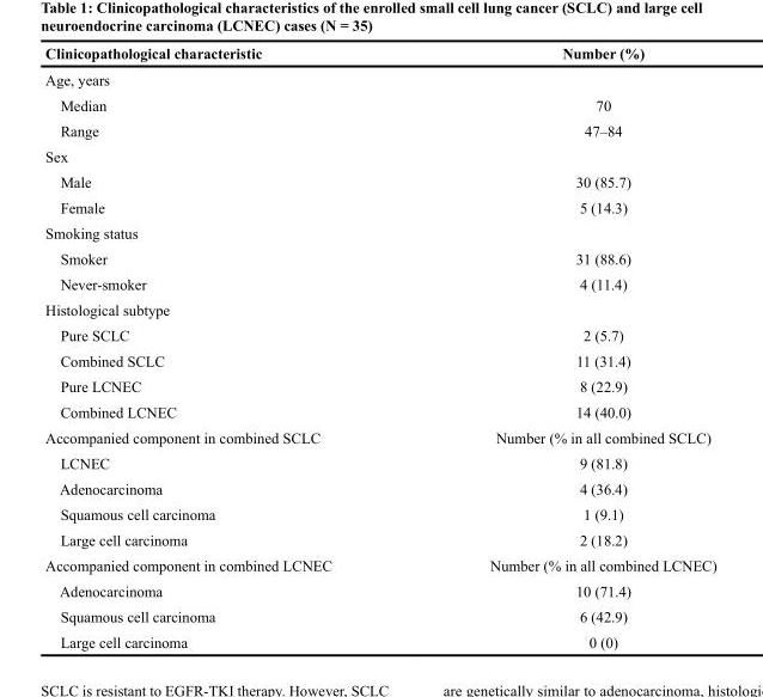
<table><thead><tr><td>Clinicopathological characteristic</td><td>Number (%)</td></tr></thead><tbody><tr><td colspan="2">Age, years</td></tr><tr><td>Median</td><td>70</td></tr><tr><td>Range</td><td>47–84</td></tr><tr><td colspan="2">Sex</td></tr><tr><td>Male</td><td>30 (85.7)</td></tr><tr><td>Female</td><td>5 (14.3)</td></tr><tr><td colspan="2">Smoking status</td></tr><tr><td>Smoker</td><td>31 (88.6)</td></tr><tr><td>Never-smoker</td><td>4 (11.4)</td></tr><tr><td colspan="2">Histological subtype</td></tr><tr><td>Pure SCLC</td><td>2 (5.7)</td></tr><tr><td>Combined SCLC</td><td>11 (31.4)</td></tr><tr><td>Pure LCNEC</td><td>8 (22.9)</td></tr><tr><td>Combined LCNEC</td><td>14 (40.0)</td></tr><tr><td>Accompanied component in combined SCLC</td><td>Number (% in all combined SCLC)</td></tr><tr><td>LCNEC</td><td>9 (81.8)</td></tr><tr><td>Adenocarcinoma</td><td>4 (36.4)</td></tr><tr><td>Squamous cell carcinoma</td><td>1 (9.1)</td></tr><tr><td>Large cell carcinoma</td><td>2 (18.2)</td></tr><tr><td>Accompanied component in combined LCNEC</td><td>Number (% in all combined LCNEC)</td></tr><tr><td>Adenocarcinoma</td><td>10 (71.4)</td></tr><tr><td>Squamous cell carcinoma</td><td>6 (42.9)</td></tr><tr><td>Large cell carcinoma</td><td>0 (0)</td></tr></tbody></table>